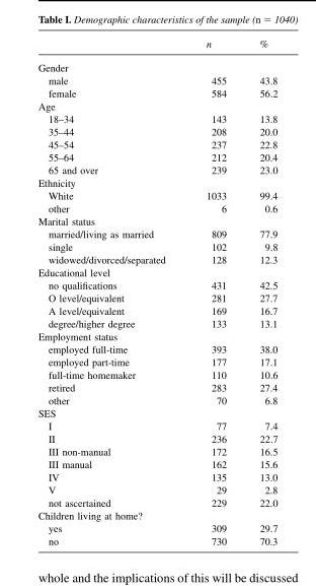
<table><thead><tr><td></td><td>n</td><td>%</td></tr></thead><tbody><tr><td colspan="3">Gender</td></tr><tr><td>male</td><td>455</td><td>43.8</td></tr><tr><td>female</td><td>584</td><td>56.2</td></tr><tr><td colspan="3">Age</td></tr><tr><td>18–34</td><td>143</td><td>13.8</td></tr><tr><td>35–44</td><td>208</td><td>20.0</td></tr><tr><td>45–54</td><td>237</td><td>22.8</td></tr><tr><td>55–64</td><td>212</td><td>20.4</td></tr><tr><td>65 and over</td><td>239</td><td>23.0</td></tr><tr><td colspan="3">Ethnicity</td></tr><tr><td>White</td><td>1033</td><td>99.4</td></tr><tr><td>other</td><td>6</td><td>0.6</td></tr><tr><td colspan="3">Marital status</td></tr><tr><td>married/living as married</td><td>809</td><td>77.9</td></tr><tr><td>single</td><td>102</td><td>9.8</td></tr><tr><td>widowed/divorced/separated</td><td>128</td><td>12.3</td></tr><tr><td colspan="3">Educational level</td></tr><tr><td>no qualifications</td><td>431</td><td>42.5</td></tr><tr><td>O level/equivalent</td><td>281</td><td>27.7</td></tr><tr><td>A level/equivalent</td><td>169</td><td>16.7</td></tr><tr><td>degree/higher degree</td><td>133</td><td>13.1</td></tr><tr><td colspan="3">Employment status</td></tr><tr><td>employed full-time</td><td>393</td><td>38.0</td></tr><tr><td>employed part-time</td><td>177</td><td>17.1</td></tr><tr><td>full-time homemaker</td><td>110</td><td>10.6</td></tr><tr><td>retired</td><td>283</td><td>27.4</td></tr><tr><td>other</td><td>70</td><td>6.8</td></tr><tr><td colspan="3">SES</td></tr><tr><td>I</td><td>77</td><td>7.4</td></tr><tr><td>II</td><td>236</td><td>22.7</td></tr><tr><td>III non-manual</td><td>172</td><td>16.5</td></tr><tr><td>III manual</td><td>162</td><td>15.6</td></tr><tr><td>IV</td><td>135</td><td>13.0</td></tr><tr><td>V</td><td>29</td><td>2.8</td></tr><tr><td>not ascertained</td><td>229</td><td>22.0</td></tr><tr><td colspan="3">Children living at home?</td></tr><tr><td>yes</td><td>309</td><td>29.7</td></tr><tr><td>no</td><td>730</td><td>70.3</td></tr></tbody></table>